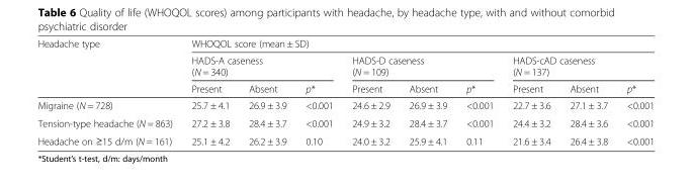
<table><thead><tr><td rowspan="3">Headache type</td><td colspan="9">WHOQOL score (mean ± SD)</td></tr><tr><td colspan="3">HADS-A caseness (N = 340)</td><td colspan="3">HADS-D caseness (N = 109)</td><td colspan="3">HADS-cAD caseness (N = 137)</td></tr><tr><td>Present</td><td>Absent</td><td>p*</td><td>Present</td><td>Absent</td><td>p*</td><td>Present</td><td>Absent</td><td>p*</td></tr></thead><tbody><tr><td>Migraine (N = 728)</td><td>25.7 ± 4.1</td><td>26.9 ± 3.9</td><td>&lt;0.001</td><td>24.6 ± 2.9</td><td>26.9 ± 3.9</td><td>&lt;0.001</td><td>22.7 ± 3.6</td><td>27.1 ± 3.7</td><td>&lt;0.001</td></tr><tr><td>Tension-type headache (N = 863)</td><td>27.2 ± 3.8</td><td>28.4 ± 3.7</td><td>&lt;0.001</td><td>24.9 ± 3.2</td><td>28.4 ± 3.7</td><td>&lt;0.001</td><td>24.4 ± 3.2</td><td>28.4 ± 3.6</td><td>&lt;0.001</td></tr><tr><td>Headache on ≥15 d/m (N = 161)</td><td>25.1 ± 4.2</td><td>26.2 ± 3.9</td><td>0.10</td><td>24.0 ± 3.2</td><td>25.9 ± 4.1</td><td>0.11</td><td>21.6 ± 3.4</td><td>26.4 ± 3.8</td><td>&lt;0.001</td></tr></tbody></table>